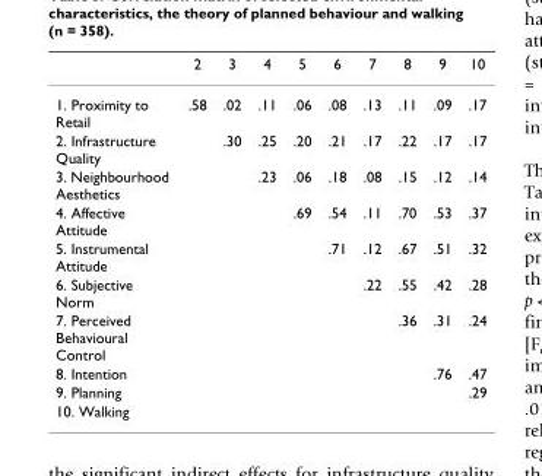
<table><thead><tr><td></td><td>2</td><td>3</td><td>4</td><td>5</td><td>6</td><td>7</td><td>8</td><td>9</td><td>10</td></tr></thead><tbody><tr><td>1. Proximity to Retail</td><td>.58</td><td>.02</td><td>.11</td><td>.06</td><td>.08</td><td>.13</td><td>.11</td><td>.09</td><td>.17</td></tr><tr><td>2. Infrastructure Quality</td><td></td><td>.30</td><td>.25</td><td>.20</td><td>.21</td><td>.17</td><td>.22</td><td>.17</td><td>.17</td></tr><tr><td>3. Neighbourhood Aesthetics</td><td></td><td></td><td>.23</td><td>.06</td><td>.18</td><td>.08</td><td>.15</td><td>.12</td><td>.14</td></tr><tr><td>4. Affective Attitude</td><td></td><td></td><td></td><td>.69</td><td>.54</td><td>.11</td><td>.70</td><td>.53</td><td>.37</td></tr><tr><td>5. Instrumental Attitude</td><td></td><td></td><td></td><td></td><td>.71</td><td>.12</td><td>.67</td><td>.51</td><td>.32</td></tr><tr><td>6. Subjective Norm</td><td></td><td></td><td></td><td></td><td></td><td>.22</td><td>.55</td><td>.42</td><td>.28</td></tr><tr><td>7. Perceived Behavioural Control</td><td></td><td></td><td></td><td></td><td></td><td></td><td>.36</td><td>.31</td><td>.24</td></tr><tr><td>8. Intention</td><td></td><td></td><td></td><td></td><td></td><td></td><td></td><td>.76</td><td>.47</td></tr><tr><td>9. Planning</td><td></td><td></td><td></td><td></td><td></td><td></td><td></td><td></td><td>.29</td></tr><tr><td>10. Walking</td><td></td><td></td><td></td><td></td><td></td><td></td><td></td><td></td><td></td></tr></tbody></table>